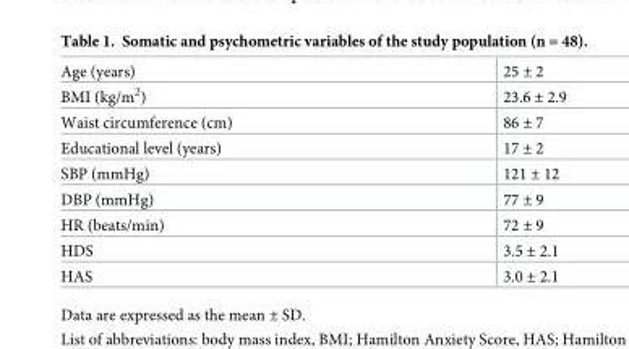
<table><tbody><tr><td>Age (years)</td><td>25 ± 2</td></tr><tr><td>BMI (kg/m<sup>2</sup>)</td><td>23.6 ± 2.9</td></tr><tr><td>Waist circumference (cm)</td><td>86 ± 7</td></tr><tr><td>Educational level (years)</td><td>17 ± 2</td></tr><tr><td>SBP (mmHg)</td><td>121 ± 12</td></tr><tr><td>DBP (mmHg)</td><td>77 ± 9</td></tr><tr><td>HR (beats/min)</td><td>72 ± 9</td></tr><tr><td>HDS</td><td>3.5 ± 2.1</td></tr><tr><td>HAS</td><td>3.0 ± 2.1</td></tr></tbody></table>